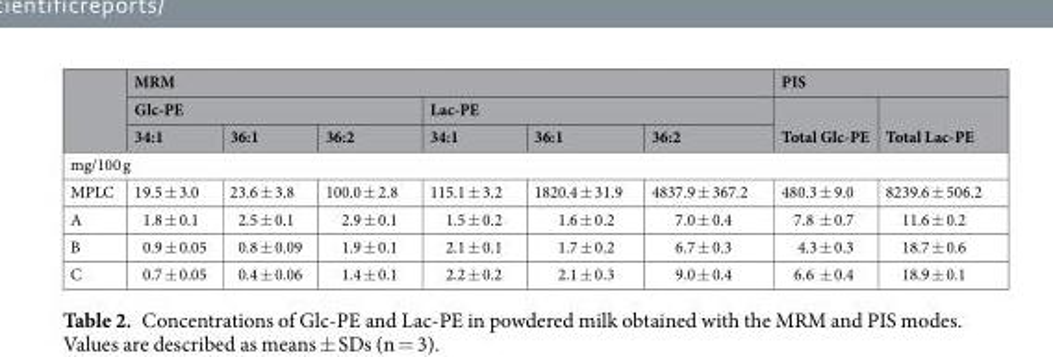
<table><thead><tr><td rowspan="3"></td><td colspan="6">MRM</td><td colspan="2">PIS</td></tr><tr><td colspan="3">Glc-PE</td><td colspan="3">Lac-PE</td><td rowspan="2">Total Glc-PE</td><td rowspan="2">Total Lac-PE</td></tr><tr><td>34:1</td><td>36:1</td><td>36:2</td><td>34:1</td><td>36:1</td><td>36:2</td></tr></thead><tbody><tr><td colspan="9">mg/100 g</td></tr><tr><td>MPLC</td><td>19.5 ± 3.0</td><td>23.6 ± 3.8</td><td>100.0 ± 2.8</td><td>115.1 ± 3.2</td><td>1820.4 ± 31.9</td><td>4837.9 ± 367.2</td><td>480.3 ± 9.0</td><td>8239.6 ± 506.2</td></tr><tr><td>A</td><td>1.8 ± 0.1</td><td>2.5 ± 0.1</td><td>2.9 ± 0.1</td><td>1.5 ± 0.2</td><td>1.6 ± 0.2</td><td>7.0 ± 0.4</td><td>7.8 ± 0.7</td><td>11.6 ± 0.2</td></tr><tr><td>B</td><td>0.9 ± 0.05</td><td>0.8 ± 0.09</td><td>1.9 ± 0.1</td><td>2.1 ± 0.1</td><td>1.7 ± 0.2</td><td>6.7 ± 0.3</td><td>4.3 ± 0.3</td><td>18.7 ± 0.6</td></tr><tr><td>C</td><td>0.7 ± 0.05</td><td>0.4 ± 0.06</td><td>1.4 ± 0.1</td><td>2.2 ± 0.2</td><td>2.1 ± 0.3</td><td>9.0 ± 0.4</td><td>6.6 ± 0.4</td><td>18.9 ± 0.1</td></tr></tbody></table>